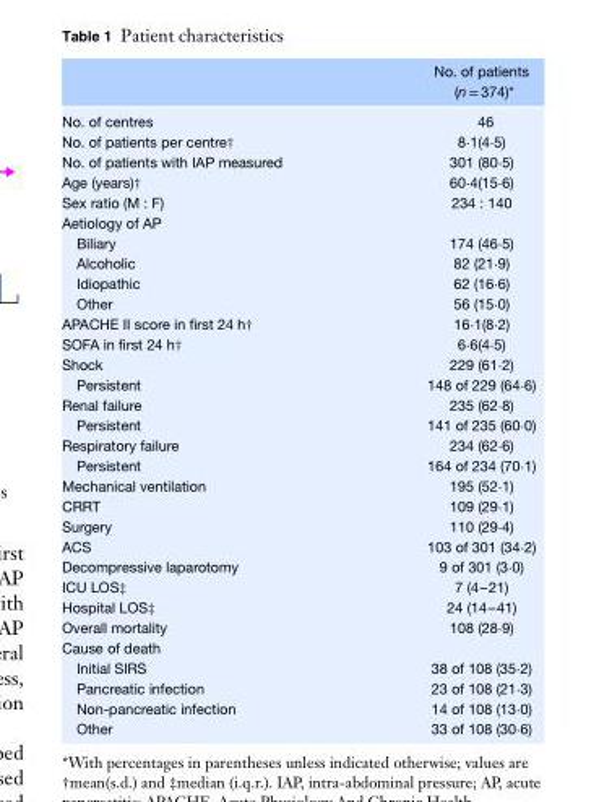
<table><thead><tr><td></td><td>No. of patients (n = 374)*</td></tr></thead><tbody><tr><td>No. of centres</td><td>46</td></tr><tr><td>No. of patients per centre†</td><td>8⋅1(4⋅5)</td></tr><tr><td>No. of patients with IAP measured</td><td>301 (80⋅5)</td></tr><tr><td>Age (years)†</td><td>60⋅4(15⋅6)</td></tr><tr><td>Sex ratio (M : F)</td><td>234 : 140</td></tr><tr><td colspan="2">Aetiology of AP</td></tr><tr><td>Biliary</td><td>174 (46⋅5)</td></tr><tr><td>Alcoholic</td><td>82 (21⋅9)</td></tr><tr><td>Idiopathic</td><td>62 (16⋅6)</td></tr><tr><td>Other</td><td>56 (15⋅0)</td></tr><tr><td>APACHE II score in first 24 h†</td><td>16⋅1(8⋅2)</td></tr><tr><td>SOFA in first 24 h†</td><td>6⋅6(4⋅5)</td></tr><tr><td>Shock</td><td>229 (61⋅2)</td></tr><tr><td>Persistent</td><td>148 of 229 (64⋅6)</td></tr><tr><td>Renal failure</td><td>235 (62⋅8)</td></tr><tr><td>Persistent</td><td>141 of 235 (60⋅0)</td></tr><tr><td>Respiratory failure</td><td>234 (62⋅6)</td></tr><tr><td>Persistent</td><td>164 of 234 (70⋅1)</td></tr><tr><td>Mechanical ventilation</td><td>195 (52⋅1)</td></tr><tr><td>CRRT</td><td>109 (29⋅1)</td></tr><tr><td>Surgery</td><td>110 (29⋅4)</td></tr><tr><td>ACS</td><td>103 of 301 (34⋅2)</td></tr><tr><td>Decompressive laparotomy</td><td>9 of 301 (3⋅0)</td></tr><tr><td>ICU LOS‡</td><td>7 (4–21)</td></tr><tr><td>Hospital LOS‡</td><td>24 (14–41)</td></tr><tr><td>Overall mortality</td><td>108 (28⋅9)</td></tr><tr><td colspan="2">Cause of death</td></tr><tr><td>Initial SIRS</td><td>38 of 108 (35⋅2)</td></tr><tr><td>Pancreatic infection</td><td>23 of 108 (21⋅3)</td></tr><tr><td>Non-pancreatic infection</td><td>14 of 108 (13⋅0)</td></tr><tr><td>Other</td><td>33 of 108 (30⋅6)</td></tr></tbody></table>